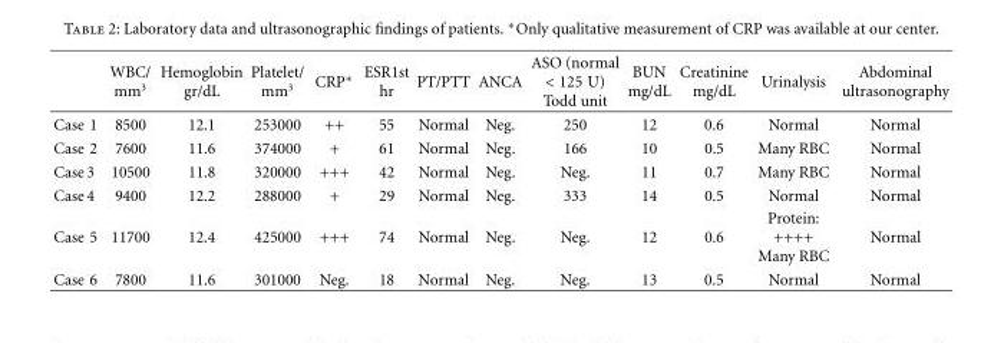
<table><thead><tr><td></td><td>WBC/ mm<sup>3</sup></td><td>Hemoglobin gr/dL</td><td>Platelet/ mm<sup>3</sup></td><td>CRP∗</td><td>ESR1st hr</td><td>PT/PTT</td><td>ANCA</td><td>ASO (normal &lt; 125 U) Todd unit</td><td>BUN mg/dL</td><td>Creatinine mg/dL</td><td>Urinalysis</td><td>Abdominal ultrasonography</td></tr></thead><tbody><tr><td>Case 1</td><td>8500</td><td>12.1</td><td>253000</td><td>++</td><td>55</td><td>Normal</td><td>Neg.</td><td>250</td><td>12</td><td>0.6</td><td>Normal</td><td>Normal</td></tr><tr><td>Case 2</td><td>7600</td><td>11.6</td><td>374000</td><td>+</td><td>61</td><td>Normal</td><td>Neg.</td><td>166</td><td>10</td><td>0.5</td><td>Many RBC</td><td>Normal</td></tr><tr><td>Case 3</td><td>10500</td><td>11.8</td><td>320000</td><td>+++</td><td>42</td><td>Normal</td><td>Neg.</td><td>Neg.</td><td>11</td><td>0.7</td><td>Many RBC</td><td>Normal</td></tr><tr><td>Case 4</td><td>9400</td><td>12.2</td><td>288000</td><td>+</td><td>29</td><td>Normal</td><td>Neg.</td><td>333</td><td>14</td><td>0.5</td><td>Normal</td><td>Normal</td></tr><tr><td>Case 5</td><td>11700</td><td>12.4</td><td>425000</td><td>+++</td><td>74</td><td>Normal</td><td>Neg.</td><td>Neg.</td><td>12</td><td>0.6</td><td>Protein: ++++ Many RBC</td><td>Normal</td></tr><tr><td>Case 6</td><td>7800</td><td>11.6</td><td>301000</td><td>Neg.</td><td>18</td><td>Normal</td><td>Neg.</td><td>Neg.</td><td>13</td><td>0.5</td><td>Normal</td><td>Normal</td></tr></tbody></table>